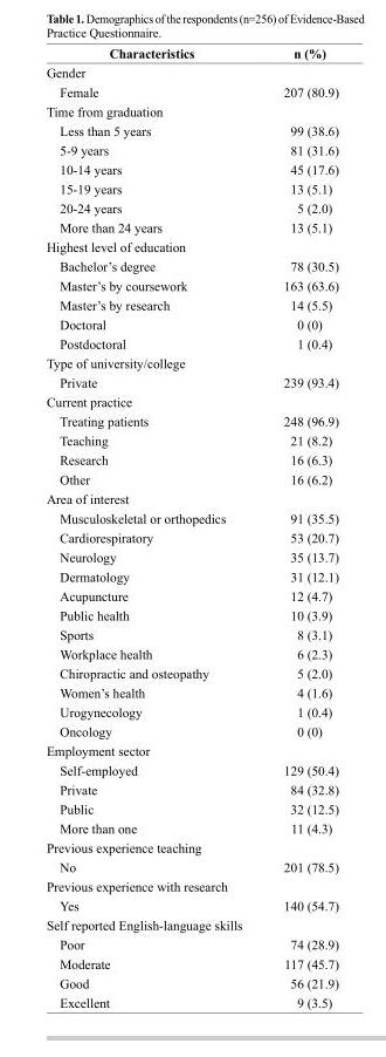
<table><thead><tr><td>Characteristics</td><td>n (%)</td></tr></thead><tbody><tr><td colspan="2">Gender</td></tr><tr><td>Female</td><td>207 (80.9)</td></tr><tr><td colspan="2">Time from graduation</td></tr><tr><td>Less than 5 years</td><td>99 (38.6)</td></tr><tr><td>5-9 years</td><td>81 (31.6)</td></tr><tr><td>10-14 years</td><td>45 (17.6)</td></tr><tr><td>15-19 years</td><td>13 (5.1)</td></tr><tr><td>20-24 years</td><td>5 (2.0)</td></tr><tr><td>More than 24 years</td><td>13 (5.1)</td></tr><tr><td colspan="2">Highest level of education</td></tr><tr><td>Bachelor’s degree</td><td>78 (30.5)</td></tr><tr><td>Master’s by coursework</td><td>163 (63.6)</td></tr><tr><td>Master’s by research</td><td>14 (5.5)</td></tr><tr><td>Doctoral</td><td>0 (0)</td></tr><tr><td>Postdoctoral</td><td>1 (0.4)</td></tr><tr><td colspan="2">Type of university/college</td></tr><tr><td>Private</td><td>239 (93.4)</td></tr><tr><td colspan="2">Current practice</td></tr><tr><td>Treating patients</td><td>248 (96.9)</td></tr><tr><td>Teaching</td><td>21 (8.2)</td></tr><tr><td>Research</td><td>16 (6.3)</td></tr><tr><td>Other</td><td>16 (6.2)</td></tr><tr><td colspan="2">Area of interest</td></tr><tr><td>Musculoskeletal or orthopedics</td><td>91 (35.5)</td></tr><tr><td>Cardiorespiratory</td><td>53 (20.7)</td></tr><tr><td>Neurology</td><td>35 (13.7)</td></tr><tr><td>Dermatology</td><td>31 (12.1)</td></tr><tr><td>Acupuncture</td><td>12 (4.7)</td></tr><tr><td>Public health</td><td>10 (3.9)</td></tr><tr><td>Sports</td><td>8 (3.1)</td></tr><tr><td>Workplace health</td><td>6 (2.3)</td></tr><tr><td>Chiropractic and osteopathy</td><td>5 (2.0)</td></tr><tr><td>Women’s health</td><td>4 (1.6)</td></tr><tr><td>Urogynecology</td><td>1 (0.4)</td></tr><tr><td>Oncology</td><td>0 (0)</td></tr><tr><td colspan="2">Employment sector</td></tr><tr><td>Self-employed</td><td>129 (50.4)</td></tr><tr><td>Private</td><td>84 (32.8)</td></tr><tr><td>Public</td><td>32 (12.5)</td></tr><tr><td>More than one</td><td>11 (4.3)</td></tr><tr><td colspan="2">Previous experience teaching</td></tr><tr><td>No</td><td>201 (78.5)</td></tr><tr><td colspan="2">Previous experience with research</td></tr><tr><td>Yes</td><td>140 (54.7)</td></tr><tr><td colspan="2">Self reported English-language skills</td></tr><tr><td>Poor</td><td>74 (28.9)</td></tr><tr><td>Moderate</td><td>117 (45.7)</td></tr><tr><td>Good</td><td>56 (21.9)</td></tr><tr><td>Excellent</td><td>9 (3.5)</td></tr></tbody></table>